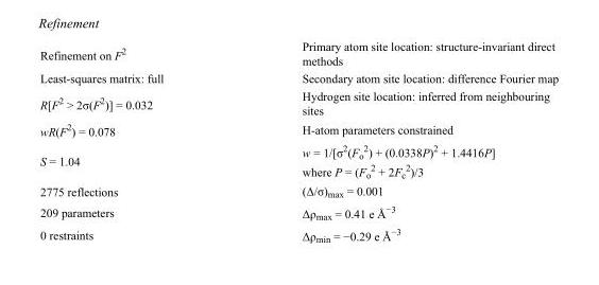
<table><tbody><tr><td>Refinement on F<sup>2</sup></td><td>Primary atom site location: structure-invariant direct methods</td></tr><tr><td>Least-squares matrix: full</td><td>Secondary atom site location: difference Fourier map</td></tr><tr><td>R[F<sup>2</sup> &gt; 2σ(F<sup>2</sup>)] = 0.032</td><td>Hydrogen site location: inferred from neighbouring sites</td></tr><tr><td>wR(F<sup>2</sup>) = 0.078</td><td>H-atom parameters constrained</td></tr><tr><td>S = 1.04</td><td>w = 1/[σ<sup>2</sup>(F<sub>o</sub> <sup>2</sup>) + (0.0338P)<sup>2</sup> + 1.4416P] where P = (F<sub>o</sub> <sup>2</sup> + 2F<sub>c</sub> <sup>2</sup>)/3</td></tr><tr><td>2775 reflections</td><td>(Δ/σ)<sub>max</sub> = 0.001</td></tr><tr><td>209 parameters</td><td>Δρ<sub>max</sub> = 0.41 e Å<sup>−3</sup></td></tr><tr><td>0 restraints</td><td>Δρ<sub>min</sub> = −0.29 e Å<sup>−3</sup></td></tr></tbody></table>